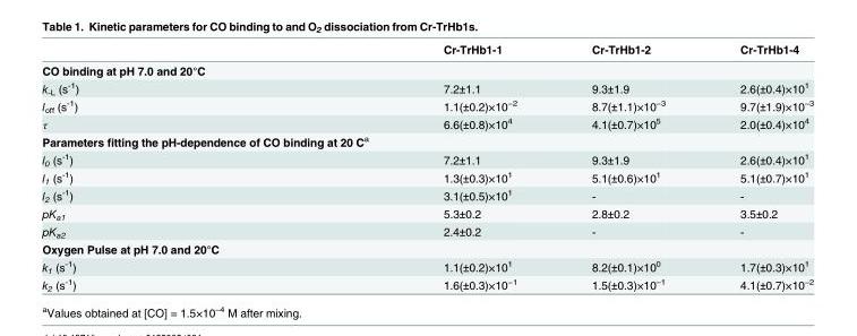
<table><thead><tr><td></td><td>Cr-TrHb1-1</td><td>Cr-TrHb1-2</td><td>Cr-TrHb1-4</td></tr></thead><tbody><tr><td colspan="4">CO binding at pH 7.0 and 20°C</td></tr><tr><td>k<sub>-L</sub> (s<sup>-1</sup>)</td><td>7.2±1.1</td><td>9.3±1.9</td><td>2.6(±0.4)×10<sup>1</sup></td></tr><tr><td>l<sub>off</sub> (s<sup>-1</sup>)</td><td>1.1(±0.2)×10<sup>−2</sup></td><td>8.7(±1.1)×10<sup>−3</sup></td><td>9.7(±1.9)×10<sup>−3</sup></td></tr><tr><td>τ</td><td>6.6(±0.8)×10<sup>4</sup></td><td>4.1(±0.7)×10<sup>5</sup></td><td>2.0(±0.4)×10<sup>4</sup></td></tr><tr><td colspan="4">Parameters fitting the pH-dependence of CO binding at 20 C<sup>a</sup></td></tr><tr><td>l<sub>0</sub> (s<sup>-1</sup>)</td><td>7.2±1.1</td><td>9.3±1.9</td><td>2.6(±0.4)×10<sup>1</sup></td></tr><tr><td>l<sub>1</sub> (s<sup>-1</sup>)</td><td>1.3(±0.3)×10<sup>1</sup></td><td>5.1(±0.6)×10<sup>1</sup></td><td>5.1(±0.7)×10<sup>1</sup></td></tr><tr><td>l<sub>2</sub> (s<sup>-1</sup>)</td><td>3.1(±0.5)×10<sup>1</sup></td><td>-</td><td>-</td></tr><tr><td>pK<sub>a1</sub></td><td>5.3±0.2</td><td>2.8±0.2</td><td>3.5±0.2</td></tr><tr><td>pK<sub>a2</sub></td><td>2.4±0.2</td><td>-</td><td>-</td></tr><tr><td colspan="4">Oxygen Pulse at pH 7.0 and 20°C</td></tr><tr><td>k<sub>1</sub> (s<sup>-1</sup>)</td><td>1.1(±0.2)×10<sup>1</sup></td><td>8.2(±0.1)×10<sup>0</sup></td><td>1.7(±0.3)×10<sup>1</sup></td></tr><tr><td>k<sub>2</sub> (s<sup>-1</sup>)</td><td>1.6(±0.3)×10<sup>−1</sup></td><td>1.5(±0.3)×10<sup>–1</sup></td><td>4.1(±0.7)×10<sup>−2</sup></td></tr></tbody></table>